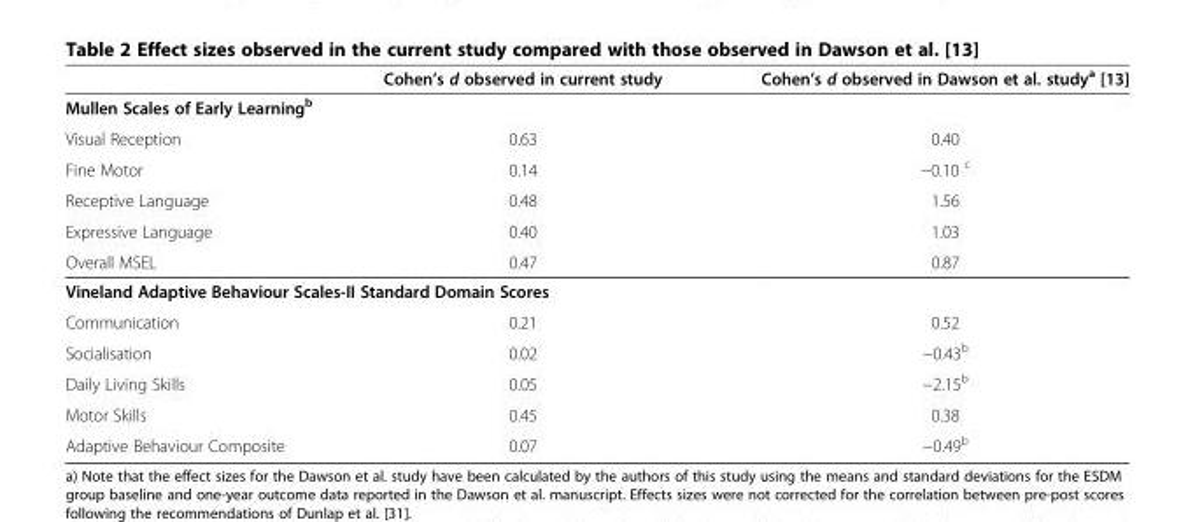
<table><thead><tr><td></td><td>Cohen’s d observed in current study</td><td>Cohen’s d observed in Dawson et al. study<sup>a</sup> [13]</td></tr></thead><tbody><tr><td colspan="3">Mullen Scales of Early Learning<sup>b</sup></td></tr><tr><td>Visual Reception</td><td>0.63</td><td>0.40</td></tr><tr><td>Fine Motor</td><td>0.14</td><td>−0.10 <sup>c</sup></td></tr><tr><td>Receptive Language</td><td>0.48</td><td>1.56</td></tr><tr><td>Expressive Language</td><td>0.40</td><td>1.03</td></tr><tr><td>Overall MSEL</td><td>0.47</td><td>0.87</td></tr><tr><td colspan="3">Vineland Adaptive Behaviour Scales-II Standard Domain Scores</td></tr><tr><td>Communication</td><td>0.21</td><td>0.52</td></tr><tr><td>Socialisation</td><td>0.02</td><td>−0.43<sup>b</sup></td></tr><tr><td>Daily Living Skills</td><td>0.05</td><td>−2.15<sup>b</sup></td></tr><tr><td>Motor Skills</td><td>0.45</td><td>0.38</td></tr><tr><td>Adaptive Behaviour Composite</td><td>0.07</td><td>−0.49<sup>b</sup></td></tr></tbody></table>